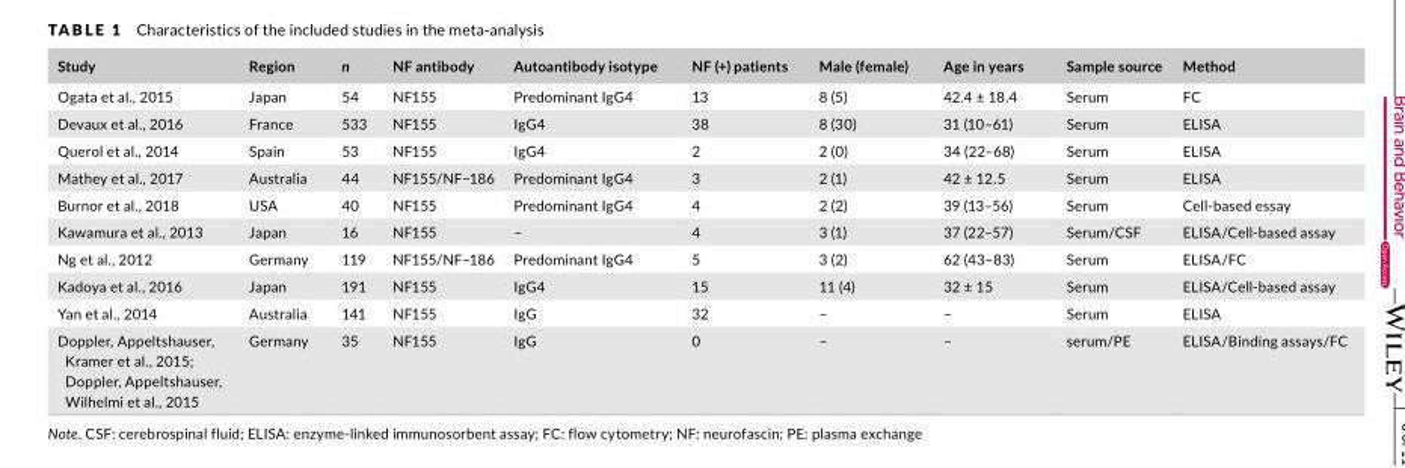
<table><thead><tr><td>Study</td><td>Region</td><td>n</td><td>NF antibody</td><td>Autoantibody isotype</td><td>NF (+) patients</td><td>Male (female)</td><td>Age in years</td><td>Sample source</td><td>Method</td></tr></thead><tbody><tr><td>Ogata et al., 2015</td><td>Japan</td><td>54</td><td>NF155</td><td>Predominant IgG4</td><td>13</td><td>8 (5)</td><td>42.4 ± 18.4</td><td>Serum</td><td>FC</td></tr><tr><td>Devaux et al., 2016</td><td>France</td><td>533</td><td>NF155</td><td>IgG4</td><td>38</td><td>8 (30)</td><td>31 (10–61)</td><td>Serum</td><td>ELISA</td></tr><tr><td>Querol et al., 2014</td><td>Spain</td><td>53</td><td>NF155</td><td>IgG4</td><td>2</td><td>2 (0)</td><td>34 (22–68)</td><td>Serum</td><td>ELISA</td></tr><tr><td>Mathey et al., 2017</td><td>Australia</td><td>44</td><td>NF155/NF−186</td><td>Predominant IgG4</td><td>3</td><td>2 (1)</td><td>42 ± 12.5</td><td>Serum</td><td>ELISA</td></tr><tr><td>Burnor et al., 2018</td><td>USA</td><td>40</td><td>NF155</td><td>Predominant IgG4</td><td>4</td><td>2 (2)</td><td>39 (13–56)</td><td>Serum</td><td>Cell‐based essay</td></tr><tr><td>Kawamura et al., 2013</td><td>Japan</td><td>16</td><td>NF155</td><td>–</td><td>4</td><td>3 (1)</td><td>37 (22–57)</td><td>Serum/CSF</td><td>ELISA/Cell‐based assay</td></tr><tr><td>Ng et al., 2012</td><td>Germany</td><td>119</td><td>NF155/NF−186</td><td>Predominant IgG4</td><td>5</td><td>3 (2)</td><td>62 (43–83)</td><td>Serum</td><td>ELISA/FC</td></tr><tr><td>Kadoya et al., 2016</td><td>Japan</td><td>191</td><td>NF155</td><td>IgG4</td><td>15</td><td>11 (4)</td><td>32 ± 15</td><td>Serum</td><td>ELISA/Cell‐based assay</td></tr><tr><td>Yan et al., 2014</td><td>Australia</td><td>141</td><td>NF155</td><td>IgG</td><td>32</td><td>–</td><td>–</td><td>Serum</td><td>ELISA</td></tr><tr><td>Doppler, Appeltshauser, Kramer et al., 2015; Doppler, Appeltshauser, Wilhelmi et al., 2015</td><td>Germany</td><td>35</td><td>NF155</td><td>IgG</td><td>0</td><td>–</td><td>–</td><td>serum/PE</td><td>ELISA/Binding assays/FC</td></tr></tbody></table>